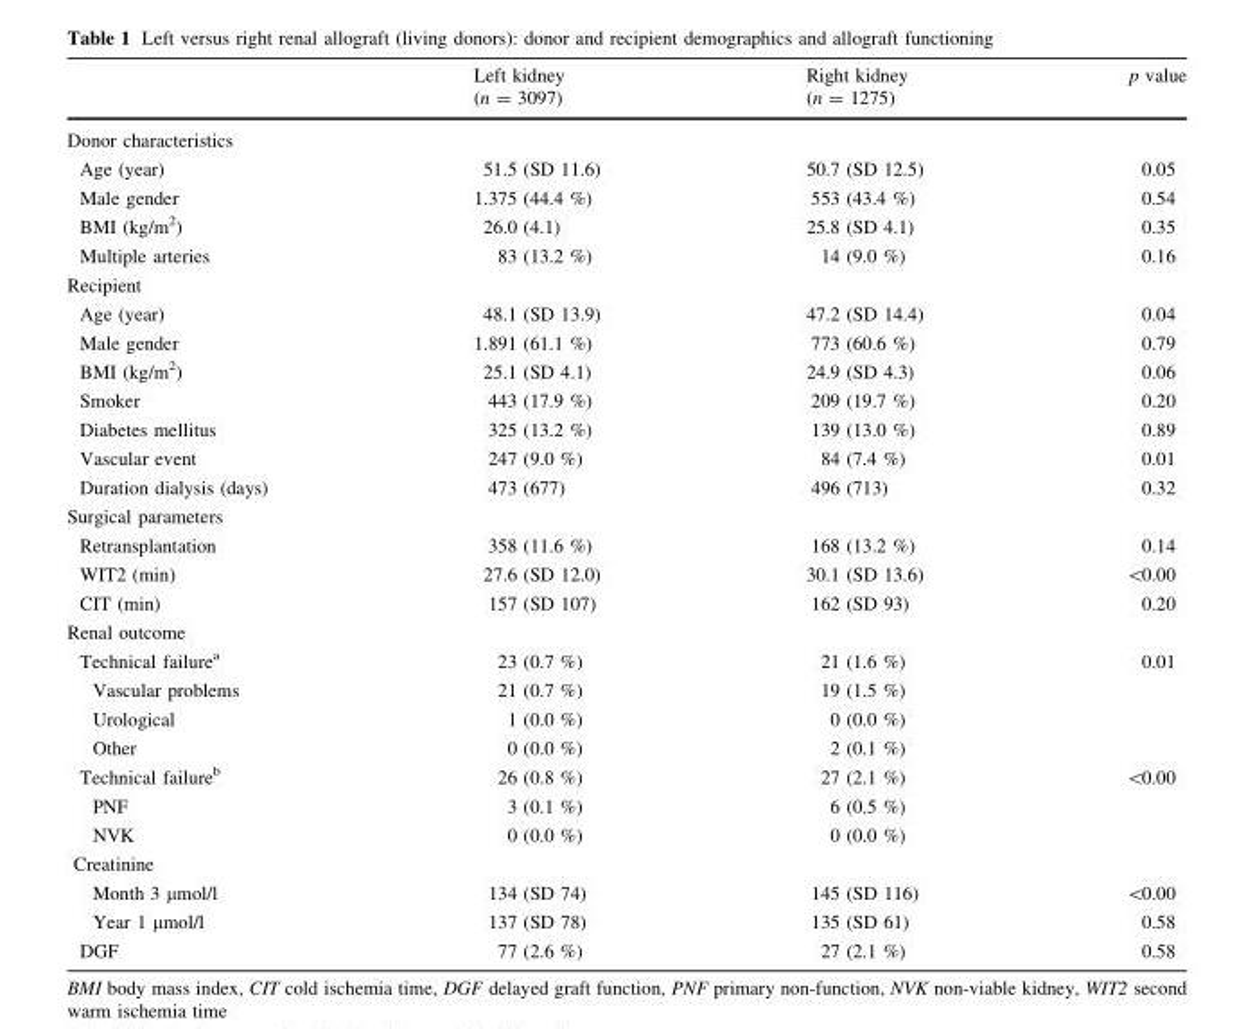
<table><thead><tr><td></td><td>Left kidney (n = 3097)</td><td>Right kidney (n = 1275)</td><td>p value</td></tr></thead><tbody><tr><td colspan="4">Donor characteristics</td></tr><tr><td>Age (year)</td><td>51.5 (SD 11.6)</td><td>50.7 (SD 12.5)</td><td>0.05</td></tr><tr><td>Male gender</td><td>1.375 (44.4 %)</td><td>553 (43.4 %)</td><td>0.54</td></tr><tr><td>BMI (kg/m<sup>2</sup>)</td><td>26.0 (4.1)</td><td>25.8 (SD 4.1)</td><td>0.35</td></tr><tr><td>Multiple arteries</td><td>83 (13.2 %)</td><td>14 (9.0 %)</td><td>0.16</td></tr><tr><td colspan="4">Recipient</td></tr><tr><td>Age (year)</td><td>48.1 (SD 13.9)</td><td>47.2 (SD 14.4)</td><td>0.04</td></tr><tr><td>Male gender</td><td>1.891 (61.1 %)</td><td>773 (60.6 %)</td><td>0.79</td></tr><tr><td>BMI (kg/m<sup>2</sup>)</td><td>25.1 (SD 4.1)</td><td>24.9 (SD 4.3)</td><td>0.06</td></tr><tr><td>Smoker</td><td>443 (17.9 %)</td><td>209 (19.7 %)</td><td>0.20</td></tr><tr><td>Diabetes mellitus</td><td>325 (13.2 %)</td><td>139 (13.0 %)</td><td>0.89</td></tr><tr><td>Vascular event</td><td>247 (9.0 %)</td><td>84 (7.4 %)</td><td>0.01</td></tr><tr><td>Duration dialysis (days)</td><td>473 (677)</td><td>496 (713)</td><td>0.32</td></tr><tr><td colspan="4">Surgical parameters</td></tr><tr><td>Retransplantation</td><td>358 (11.6 %)</td><td>168 (13.2 %)</td><td>0.14</td></tr><tr><td>WIT2 (min)</td><td>27.6 (SD 12.0)</td><td>30.1 (SD 13.6)</td><td>&lt;0.00</td></tr><tr><td>CIT (min)</td><td>157 (SD 107)</td><td>162 (SD 93)</td><td>0.20</td></tr><tr><td colspan="4">Renal outcome</td></tr><tr><td>Technical failure<sup>a</sup></td><td>23 (0.7 %)</td><td>21 (1.6 %)</td><td>0.01</td></tr><tr><td>Vascular problems</td><td>21 (0.7 %)</td><td>19 (1.5 %)</td><td></td></tr><tr><td>Urological</td><td>1 (0.0 %)</td><td>0 (0.0 %)</td><td></td></tr><tr><td>Other</td><td>0 (0.0 %)</td><td>2 (0.1 %)</td><td></td></tr><tr><td>Technical failure<sup>b</sup></td><td>26 (0.8 %)</td><td>27 (2.1 %)</td><td>&lt;0.00</td></tr><tr><td>PNF</td><td>3 (0.1 %)</td><td>6 (0.5 %)</td><td></td></tr><tr><td>NVK</td><td>0 (0.0 %)</td><td>0 (0.0 %)</td><td></td></tr><tr><td colspan="4">Creatinine</td></tr><tr><td>Month 3 µmol/l</td><td>134 (SD 74)</td><td>145 (SD 116)</td><td>&lt;0.00</td></tr><tr><td>Year 1 µmol/l</td><td>137 (SD 78)</td><td>135 (SD 61)</td><td>0.58</td></tr><tr><td>DGF</td><td>77 (2.6 %)</td><td>27 (2.1 %)</td><td>0.58</td></tr></tbody></table>